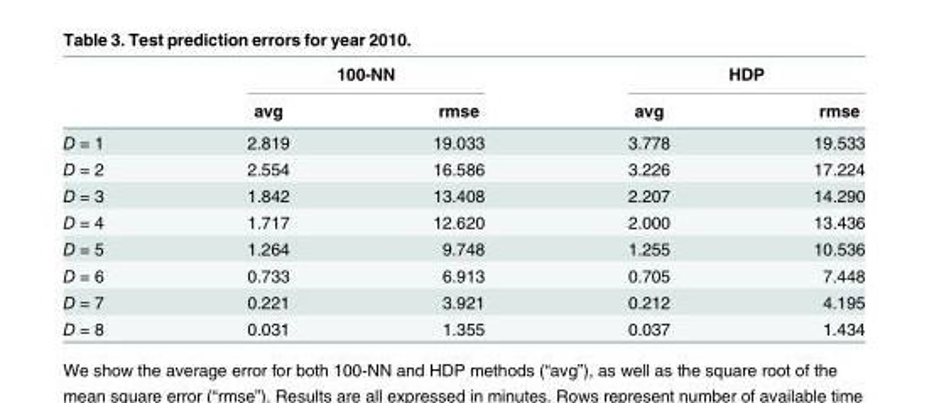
<table><thead><tr><td rowspan="2"></td><td colspan="2">100-NN</td><td colspan="2">HDP</td></tr><tr><td>avg</td><td>rmse</td><td>avg</td><td>rmse</td></tr></thead><tbody><tr><td>D = 1</td><td>2.819</td><td>19.033</td><td>3.778</td><td>19.533</td></tr><tr><td>D = 2</td><td>2.554</td><td>16.586</td><td>3.226</td><td>17.224</td></tr><tr><td>D = 3</td><td>1.842</td><td>13.408</td><td>2.207</td><td>14.290</td></tr><tr><td>D = 4</td><td>1.717</td><td>12.620</td><td>2.000</td><td>13.436</td></tr><tr><td>D = 5</td><td>1.264</td><td>9.748</td><td>1.255</td><td>10.536</td></tr><tr><td>D = 6</td><td>0.733</td><td>6.913</td><td>0.705</td><td>7.448</td></tr><tr><td>D = 7</td><td>0.221</td><td>3.921</td><td>0.212</td><td>4.195</td></tr><tr><td>D = 8</td><td>0.031</td><td>1.355</td><td>0.037</td><td>1.434</td></tr></tbody></table>